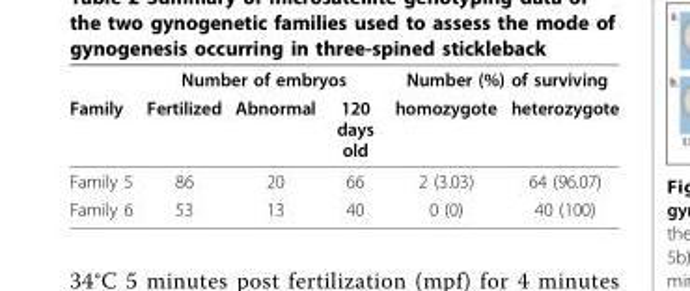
<table><thead><tr><td rowspan="2">Family</td><td colspan="3">Number of embryos</td><td colspan="2">Number (%) of surviving</td></tr><tr><td>Fertilized</td><td>Abnormal</td><td>120 days old</td><td>homozygote</td><td>heterozygote</td></tr></thead><tbody><tr><td>Family 5</td><td>86</td><td>20</td><td>66</td><td>2 (3.03)</td><td>64 (96.07)</td></tr><tr><td>Family 6</td><td>53</td><td>13</td><td>40</td><td>0 (0)</td><td>40 (100)</td></tr></tbody></table>